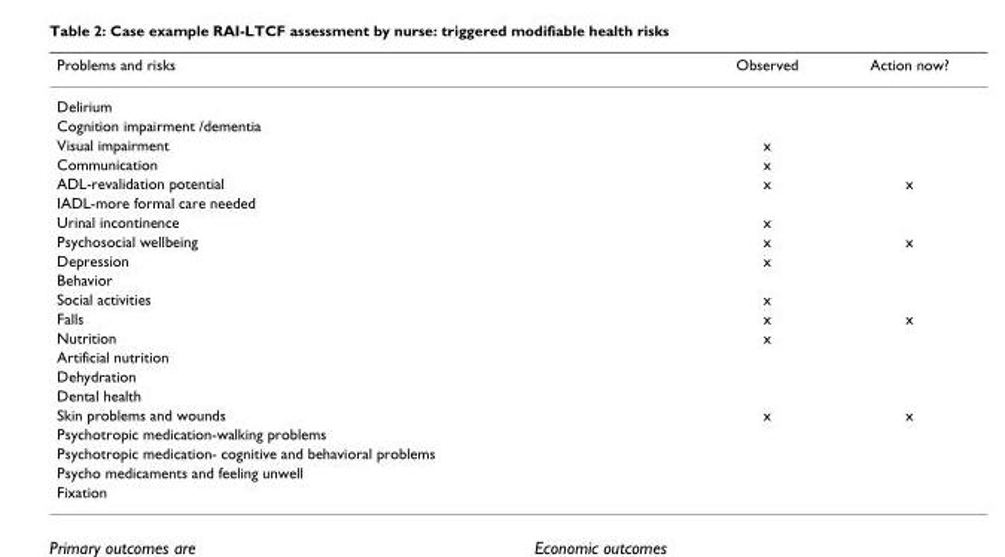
<table><thead><tr><td>Problems and risks</td><td>Observed</td><td>Action now?</td></tr></thead><tbody><tr><td colspan="3">Delirium</td></tr><tr><td colspan="3">Cognition impairment /dementia</td></tr><tr><td>Visual impairment</td><td>x</td><td></td></tr><tr><td>Communication</td><td>x</td><td></td></tr><tr><td>ADL-revalidation potential</td><td>x</td><td>x</td></tr><tr><td colspan="3">IADL-more formal care needed</td></tr><tr><td>Urinal incontinence</td><td>x</td><td></td></tr><tr><td>Psychosocial wellbeing</td><td>x</td><td>x</td></tr><tr><td>Depression</td><td>x</td><td></td></tr><tr><td colspan="3">Behavior</td></tr><tr><td>Social activities</td><td>x</td><td></td></tr><tr><td>Falls</td><td>x</td><td>x</td></tr><tr><td>Nutrition</td><td>x</td><td></td></tr><tr><td colspan="3">Artificial nutrition</td></tr><tr><td colspan="3">Dehydration</td></tr><tr><td colspan="3">Dental health</td></tr><tr><td>Skin problems and wounds</td><td>x</td><td>x</td></tr><tr><td colspan="3">Psychotropic medication-walking problems</td></tr><tr><td colspan="3">Psychotropic medication- cognitive and behavioral problems</td></tr><tr><td colspan="3">Psycho medicaments and feeling unwell</td></tr><tr><td>Fixation</td><td></td><td></td></tr></tbody></table>